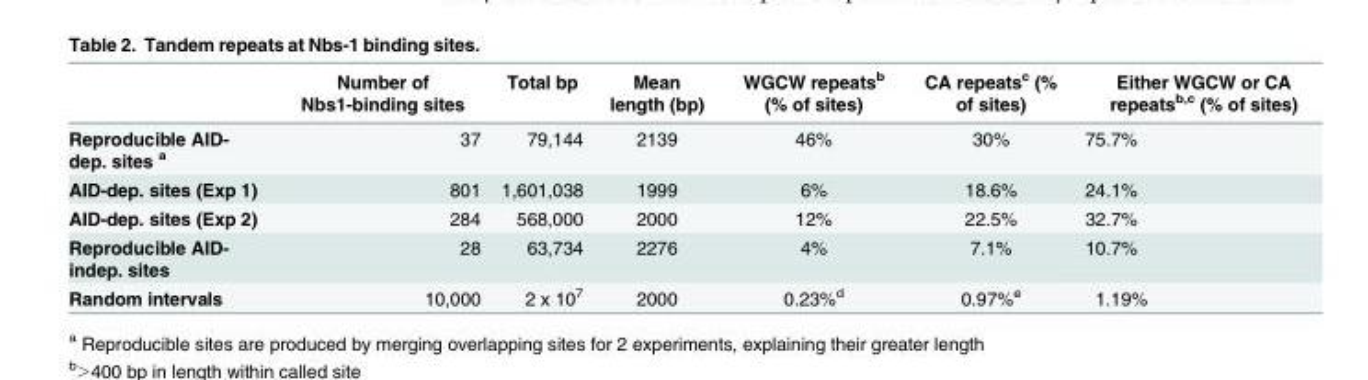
<table><thead><tr><td></td><td>Number of Nbs1-binding sites</td><td>Total bp</td><td>Mean length (bp)</td><td>WGCW repeats<sup>b</sup> (% of sites)</td><td>CA repeats<sup>c</sup> (% of sites)</td><td>Either WGCW or CA repeats<sup>b,c</sup> (% of sites)</td></tr></thead><tbody><tr><td>Reproducible AID- dep. sites <sup>a</sup></td><td>37</td><td>79,144</td><td>2139</td><td>46%</td><td>30%</td><td>75.7%</td></tr><tr><td>AID-dep. sites (Exp 1)</td><td>801</td><td>1,601,038</td><td>1999</td><td>6%</td><td>18.6%</td><td>24.1%</td></tr><tr><td>AID-dep. sites (Exp 2)</td><td>284</td><td>568,000</td><td>2000</td><td>12%</td><td>22.5%</td><td>32.7%</td></tr><tr><td>Reproducible AID- indep. sites</td><td>28</td><td>63,734</td><td>2276</td><td>4%</td><td>7.1%</td><td>10.7%</td></tr><tr><td>Random intervals</td><td>10,000</td><td>2 x 10<sup>7</sup></td><td>2000</td><td>0.23%<sup>d</sup></td><td>0.97%<sup>e</sup></td><td>1.19%</td></tr></tbody></table>